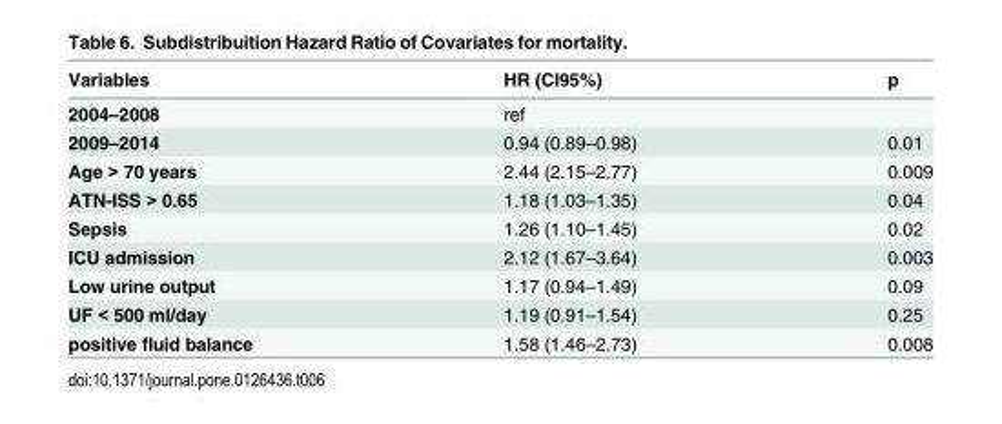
<table><thead><tr><td>Variables</td><td>HR (CI95%)</td><td>p</td></tr></thead><tbody><tr><td>2004–2008</td><td>ref</td><td></td></tr><tr><td>2009–2014</td><td>0.94 (0.89–0.98)</td><td>0.01</td></tr><tr><td>Age &gt; 70 years</td><td>2.44 (2.15–2.77)</td><td>0.009</td></tr><tr><td>ATN-ISS &gt; 0.65</td><td>1.18 (1.03–1.35)</td><td>0.04</td></tr><tr><td>Sepsis</td><td>1.26 (1.10–1.45)</td><td>0.02</td></tr><tr><td>ICU admission</td><td>2.12 (1.67–3.64)</td><td>0.003</td></tr><tr><td>Low urine output</td><td>1.17 (0.94–1.49)</td><td>0.09</td></tr><tr><td>UF &lt; 500 ml/day</td><td>1.19 (0.91–1.54)</td><td>0.25</td></tr><tr><td>positive fluid balance</td><td>1.58 (1.46–2.73)</td><td>0.008</td></tr></tbody></table>